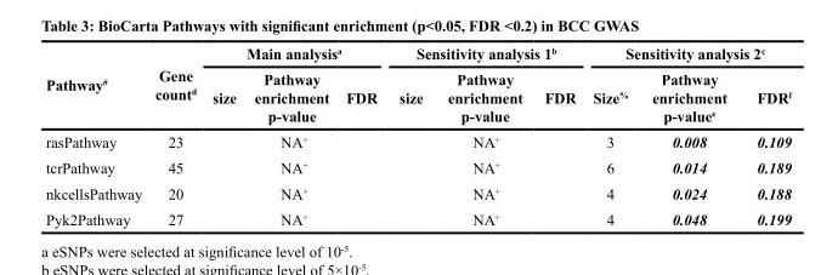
<table><thead><tr><td rowspan="2">Pathway<sup>#</sup></td><td rowspan="2">Gene count<sup>d</sup></td><td colspan="3">Main analysis<sup>a</sup></td><td colspan="3">Sensitivity analysis 1<sup>b</sup></td><td colspan="3">Sensitivity analysis 2<sup>c</sup></td></tr><tr><td>size</td><td>Pathway enrichment p-value</td><td>FDR</td><td>size</td><td>Pathway enrichment p-value</td><td>FDR</td><td>Size<sup>%</sup></td><td>Pathway enrichment p-value<sup>e</sup></td><td>FDR<sup>f</sup></td></tr></thead><tbody><tr><td>rasPathway</td><td>23</td><td colspan="3">NA<sup>+</sup></td><td colspan="3">NA<sup>+</sup></td><td>3</td><td>0.008</td><td>0.109</td></tr><tr><td>tcrPathway</td><td>45</td><td colspan="3">NA<sup>+</sup></td><td colspan="3">NA<sup>+</sup></td><td>6</td><td>0.014</td><td>0.189</td></tr><tr><td>nkcellsPathway</td><td>20</td><td colspan="3">NA<sup>+</sup></td><td colspan="3">NA<sup>+</sup></td><td>4</td><td>0.024</td><td>0.188</td></tr><tr><td>Pyk2Pathway</td><td>27</td><td colspan="3">NA<sup>+</sup></td><td colspan="3">NA<sup>+</sup></td><td>4</td><td>0.048</td><td>0.199</td></tr></tbody></table>